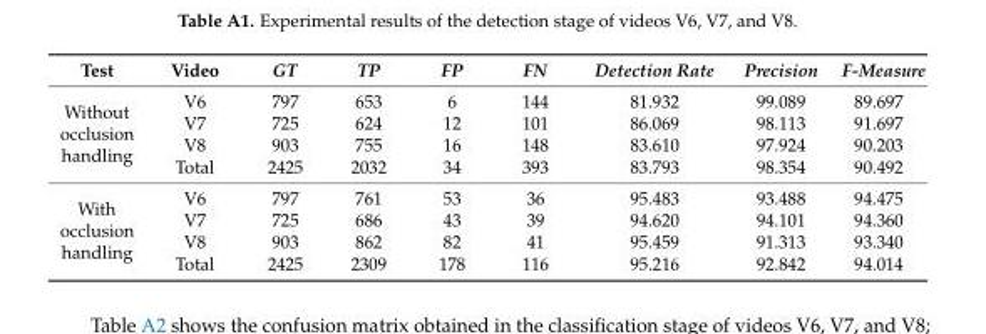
<table><thead><tr><td>Test</td><td>Video</td><td>GT</td><td>TP</td><td>FP</td><td>FN</td><td>Detection Rate</td><td>Precision</td><td>F-Measure</td></tr></thead><tbody><tr><td rowspan="4">Without occlusion handling</td><td>V6</td><td>797</td><td>653</td><td>6</td><td>144</td><td>81.932</td><td>99.089</td><td>89.697</td></tr><tr><td>V7</td><td>725</td><td>624</td><td>12</td><td>101</td><td>86.069</td><td>98.113</td><td>91.697</td></tr><tr><td>V8</td><td>903</td><td>755</td><td>16</td><td>148</td><td>83.610</td><td>97.924</td><td>90.203</td></tr><tr><td>Total</td><td>2425</td><td>2032</td><td>34</td><td>393</td><td>83.793</td><td>98.354</td><td>90.492</td></tr><tr><td rowspan="4">With occlusion handling</td><td>V6</td><td>797</td><td>761</td><td>53</td><td>36</td><td>95.483</td><td>93.488</td><td>94.475</td></tr><tr><td>V7</td><td>725</td><td>686</td><td>43</td><td>39</td><td>94.620</td><td>94.101</td><td>94.360</td></tr><tr><td>V8</td><td>903</td><td>862</td><td>82</td><td>41</td><td>95.459</td><td>91.313</td><td>93.340</td></tr><tr><td>Total</td><td>2425</td><td>2309</td><td>178</td><td>116</td><td>95.216</td><td>92.842</td><td>94.014</td></tr></tbody></table>